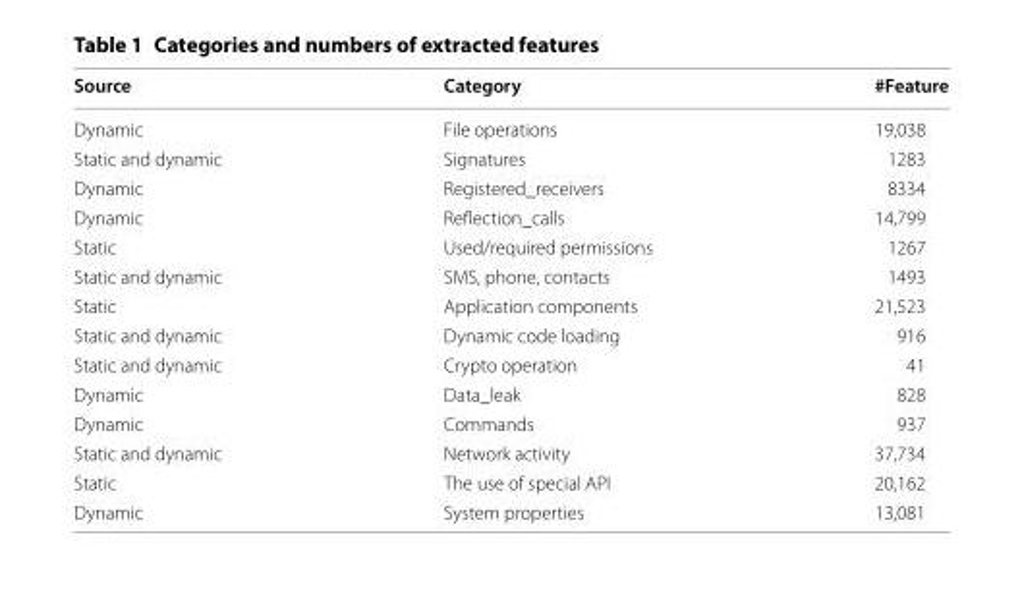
<table><thead><tr><td>Source</td><td>Category</td><td>#Feature</td></tr></thead><tbody><tr><td>Dynamic</td><td>File operations</td><td>19,038</td></tr><tr><td>Static and dynamic</td><td>Signatures</td><td>1283</td></tr><tr><td>Dynamic</td><td>Registered_receivers</td><td>8334</td></tr><tr><td>Dynamic</td><td>Reflection_calls</td><td>14,799</td></tr><tr><td>Static</td><td>Used/required permissions</td><td>1267</td></tr><tr><td>Static and dynamic</td><td>SMS, phone, contacts</td><td>1493</td></tr><tr><td>Static</td><td>Application components</td><td>21,523</td></tr><tr><td>Static and dynamic</td><td>Dynamic code loading</td><td>916</td></tr><tr><td>Static and dynamic</td><td>Crypto operation</td><td>41</td></tr><tr><td>Dynamic</td><td>Data_leak</td><td>828</td></tr><tr><td>Dynamic</td><td>Commands</td><td>937</td></tr><tr><td>Static and dynamic</td><td>Network activity</td><td>37,734</td></tr><tr><td>Static</td><td>The use of special API</td><td>20,162</td></tr><tr><td>Dynamic</td><td>System properties</td><td>13,081</td></tr></tbody></table>